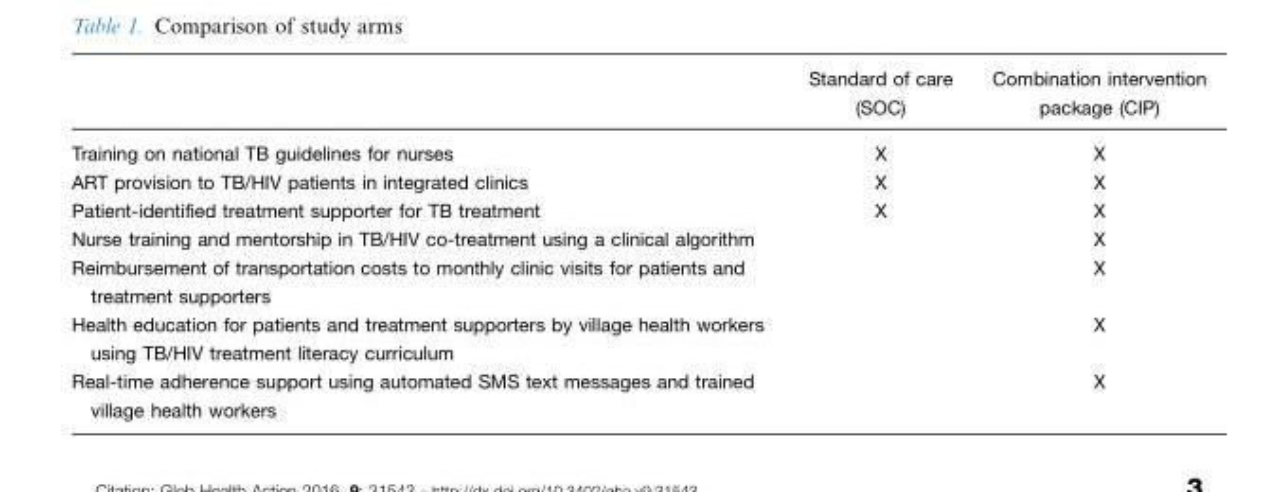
<table><thead><tr><td></td><td>Standard of care (SOC)</td><td>Combination intervention package (CIP)</td></tr></thead><tbody><tr><td>Training on national TB guidelines for nurses</td><td>X</td><td>X</td></tr><tr><td>ART provision to TB/HIV patients in integrated clinics</td><td>X</td><td>X</td></tr><tr><td>Patient-identified treatment supporter for TB treatment</td><td>X</td><td>X</td></tr><tr><td>Nurse training and mentorship in TB/HIV co-treatment using a clinical algorithm</td><td></td><td>X</td></tr><tr><td>Reimbursement of transportation costs to monthly clinic visits for patients and treatment supporters</td><td></td><td>X</td></tr><tr><td>Health education for patients and treatment supporters by village health workers using TB/HIV treatment literacy curriculum</td><td></td><td>X</td></tr><tr><td>Real-time adherence support using automated SMS text messages and trained village health workers</td><td></td><td>X</td></tr></tbody></table>